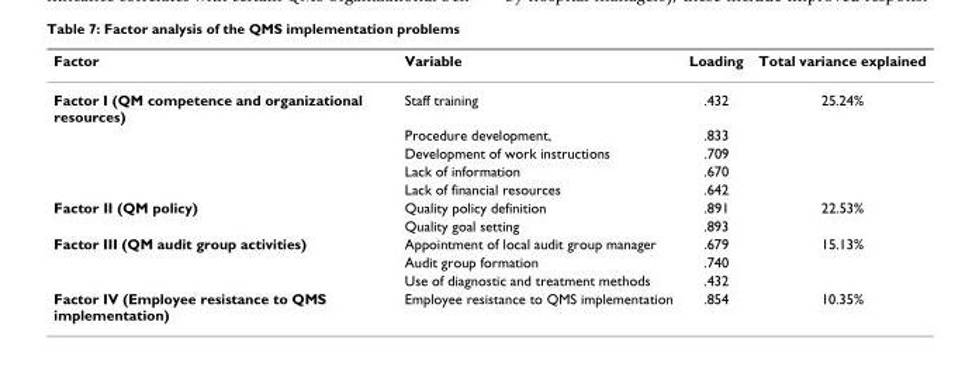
<table><thead><tr><td>Factor</td><td>Variable</td><td>Loading</td><td>Total variance explained</td></tr></thead><tbody><tr><td rowspan="5">Factor I (QM competence and organizational resources)</td><td>Staff training</td><td>.432</td><td>25.24%</td></tr><tr><td>Procedure development,</td><td>.833</td><td></td></tr><tr><td>Development of work instructions</td><td>.709</td><td></td></tr><tr><td>Lack of information</td><td>.670</td><td></td></tr><tr><td>Lack of financial resources</td><td>.642</td><td></td></tr><tr><td rowspan="2">Factor II (QM policy)</td><td>Quality policy definition</td><td>.891</td><td>22.53%</td></tr><tr><td>Quality goal setting</td><td>.893</td><td></td></tr><tr><td rowspan="3">Factor III (QM audit group activities)</td><td>Appointment of local audit group manager</td><td>.679</td><td>15.13%</td></tr><tr><td>Audit group formation</td><td>.740</td><td></td></tr><tr><td>Use of diagnostic and treatment methods</td><td>.432</td><td></td></tr><tr><td>Factor IV (Employee resistance to QMS implementation)</td><td>Employee resistance to QMS implementation</td><td>.854</td><td>10.35%</td></tr></tbody></table>